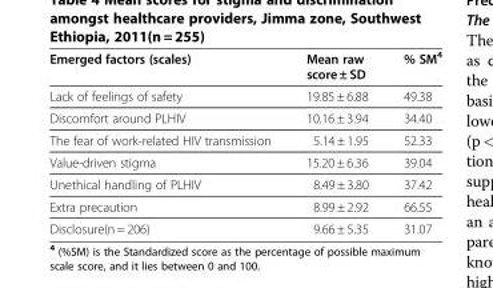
<table><thead><tr><td>Emerged factors (scales)</td><td>Mean raw score ± SD</td><td>% SM<sup>4</sup></td></tr></thead><tbody><tr><td>Lack of feelings of safety</td><td>19.85 ± 6.88</td><td>49.38</td></tr><tr><td>Discomfort around PLHIV</td><td>10.16 ± 3.94</td><td>34.40</td></tr><tr><td>The fear of work-related HIV transmission</td><td>5.14 ± 1.95</td><td>52.33</td></tr><tr><td>Value-driven stigma</td><td>15.20 ± 6.36</td><td>39.04</td></tr><tr><td>Unethical handling of PLHIV</td><td>8.49 ± 3.80</td><td>37.42</td></tr><tr><td>Extra precaution</td><td>8.99 ± 2.92</td><td>66.55</td></tr><tr><td>Disclosure(n = 206)</td><td>9.66 ± 5.35</td><td>31.07</td></tr></tbody></table>